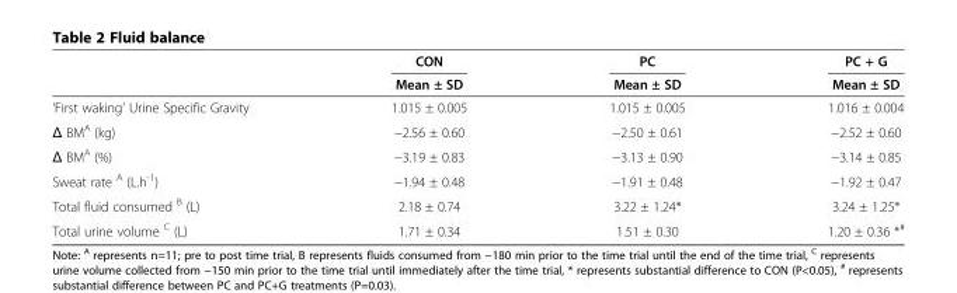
<table><thead><tr><td rowspan="2"></td><td rowspan="2">CON Mean ± SD</td><td rowspan="2">PC Mean ± SD</td><td rowspan="2">PC + G Mean ± SD</td></tr><tr></tr></thead><tbody><tr><td>‘First waking’ Urine Specific Gravity</td><td>1.015 ± 0.005</td><td>1.015 ± 0.005</td><td>1.016 ± 0.004</td></tr><tr><td>Δ BM<sup>A</sup> (kg)</td><td>−2.56 ± 0.60</td><td>−2.50 ± 0.61</td><td>−2.52 ± 0.60</td></tr><tr><td>Δ BM<sup>A</sup> (%)</td><td>−3.19 ± 0.83</td><td>−3.13 ± 0.90</td><td>−3.14 ± 0.85</td></tr><tr><td>Sweat rate <sup>A</sup> (L.h<sup>-1</sup>)</td><td>−1.94 ± 0.48</td><td>−1.91 ± 0.48</td><td>−1.92 ± 0.47</td></tr><tr><td>Total fluid consumed <sup>B</sup> (L)</td><td>2.18 ± 0.74</td><td>3.22 ± 1.24*</td><td>3.24 ± 1.25*</td></tr><tr><td>Total urine volume <sup>C</sup> (L)</td><td>1.71 ± 0.34</td><td>1.51 ± 0.30</td><td>1.20 ± 0.36 *<sup>#</sup></td></tr></tbody></table>